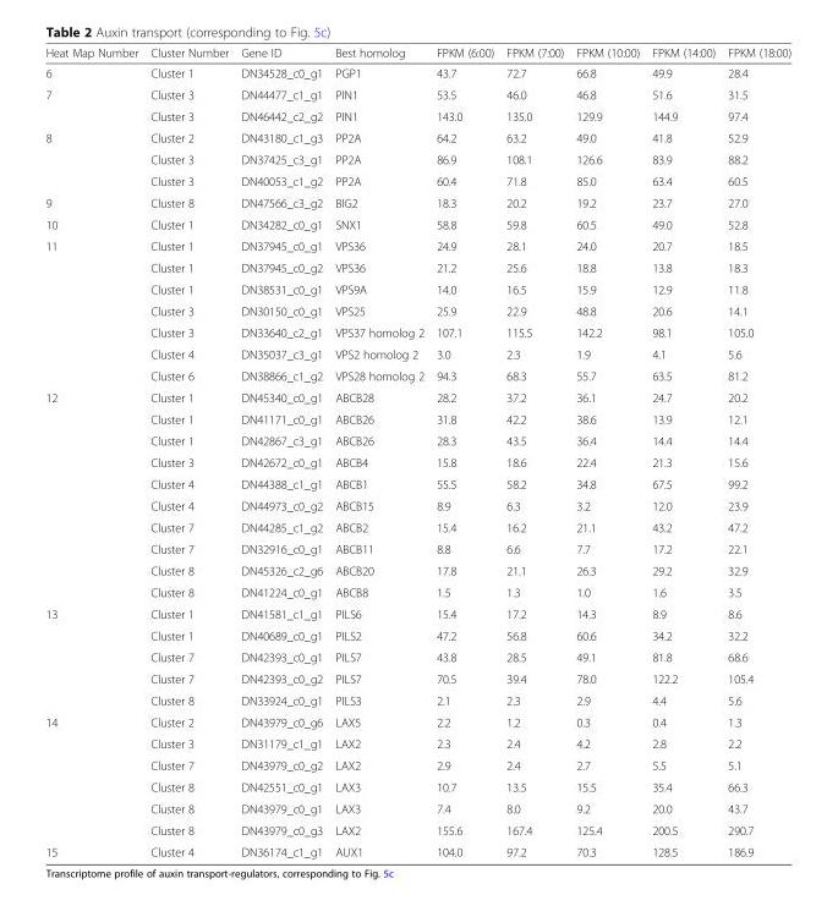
<table><thead><tr><td>Heat Map Number</td><td>Cluster Number</td><td>Gene ID</td><td>Best homolog</td><td>FPKM (6:00)</td><td>FPKM (7:00)</td><td>FPKM (10:00)</td><td>FPKM (14:00)</td><td>FPKM (18:00)</td></tr></thead><tbody><tr><td>6</td><td>Cluster 1</td><td>DN34528_c0_g1</td><td>PGP1</td><td>43.7</td><td>72.7</td><td>66.8</td><td>49.9</td><td>28.4</td></tr><tr><td rowspan="2">7</td><td>Cluster 3</td><td>DN44477_c1_g1</td><td>PIN1</td><td>53.5</td><td>46.0</td><td>46.8</td><td>51.6</td><td>31.5</td></tr><tr><td>Cluster 3</td><td>DN46442_c2_g2</td><td>PIN1</td><td>143.0</td><td>135.0</td><td>129.9</td><td>144.9</td><td>97.4</td></tr><tr><td rowspan="3">8</td><td>Cluster 2</td><td>DN43180_c1_g3</td><td>PP2A</td><td>64.2</td><td>63.2</td><td>49.0</td><td>41.8</td><td>52.9</td></tr><tr><td>Cluster 3</td><td>DN37425_c3_g1</td><td>PP2A</td><td>86.9</td><td>108.1</td><td>126.6</td><td>83.9</td><td>88.2</td></tr><tr><td>Cluster 3</td><td>DN40053_c1_g2</td><td>PP2A</td><td>60.4</td><td>71.8</td><td>85.0</td><td>63.4</td><td>60.5</td></tr><tr><td>9</td><td>Cluster 8</td><td>DN47566_c3_g2</td><td>BIG2</td><td>18.3</td><td>20.2</td><td>19.2</td><td>23.7</td><td>27.0</td></tr><tr><td>10</td><td>Cluster 1</td><td>DN34282_c0_g1</td><td>SNX1</td><td>58.8</td><td>59.8</td><td>60.5</td><td>49.0</td><td>52.8</td></tr><tr><td rowspan="7">11</td><td>Cluster 1</td><td>DN37945_c0_g1</td><td>VPS36</td><td>24.9</td><td>28.1</td><td>24.0</td><td>20.7</td><td>18.5</td></tr><tr><td>Cluster 1</td><td>DN37945_c0_g2</td><td>VPS36</td><td>21.2</td><td>25.6</td><td>18.8</td><td>13.8</td><td>18.3</td></tr><tr><td>Cluster 1</td><td>DN38531_c0_g1</td><td>VPS9A</td><td>14.0</td><td>16.5</td><td>15.9</td><td>12.9</td><td>11.8</td></tr><tr><td>Cluster 3</td><td>DN30150_c0_g1</td><td>VPS25</td><td>25.9</td><td>22.9</td><td>48.8</td><td>20.6</td><td>14.1</td></tr><tr><td>Cluster 3</td><td>DN33640_c2_g1</td><td>VPS37 homolog 2</td><td>107.1</td><td>115.5</td><td>142.2</td><td>98.1</td><td>105.0</td></tr><tr><td>Cluster 4</td><td>DN35037_c3_g1</td><td>VPS2 homolog 2</td><td>3.0</td><td>2.3</td><td>1.9</td><td>4.1</td><td>5.6</td></tr><tr><td>Cluster 6</td><td>DN38866_c1_g2</td><td>VPS28 homolog 2</td><td>94.3</td><td>68.3</td><td>55.7</td><td>63.5</td><td>81.2</td></tr><tr><td rowspan="10">12</td><td>Cluster 1</td><td>DN45340_c0_g1</td><td>ABCB28</td><td>28.2</td><td>37.2</td><td>36.1</td><td>24.7</td><td>20.2</td></tr><tr><td>Cluster 1</td><td>DN41171_c0_g1</td><td>ABCB26</td><td>31.8</td><td>42.2</td><td>38.6</td><td>13.9</td><td>12.1</td></tr><tr><td>Cluster 1</td><td>DN42867_c3_g1</td><td>ABCB26</td><td>28.3</td><td>43.5</td><td>36.4</td><td>14.4</td><td>14.4</td></tr><tr><td>Cluster 3</td><td>DN42672_c0_g1</td><td>ABCB4</td><td>15.8</td><td>18.6</td><td>22.4</td><td>21.3</td><td>15.6</td></tr><tr><td>Cluster 4</td><td>DN44388_c1_g1</td><td>ABCB1</td><td>55.5</td><td>58.2</td><td>34.8</td><td>67.5</td><td>99.2</td></tr><tr><td>Cluster 4</td><td>DN44973_c0_g2</td><td>ABCB15</td><td>8.9</td><td>6.3</td><td>3.2</td><td>12.0</td><td>23.9</td></tr><tr><td>Cluster 7</td><td>DN44285_c1_g2</td><td>ABCB2</td><td>15.4</td><td>16.2</td><td>21.1</td><td>43.2</td><td>47.2</td></tr><tr><td>Cluster 7</td><td>DN32916_c0_g1</td><td>ABCB11</td><td>8.8</td><td>6.6</td><td>7.7</td><td>17.2</td><td>22.1</td></tr><tr><td>Cluster 8</td><td>DN45326_c2_g6</td><td>ABCB20</td><td>17.8</td><td>21.1</td><td>26.3</td><td>29.2</td><td>32.9</td></tr><tr><td>Cluster 8</td><td>DN41224_c0_g1</td><td>ABCB8</td><td>1.5</td><td>1.3</td><td>1.0</td><td>1.6</td><td>3.5</td></tr><tr><td rowspan="5">13</td><td>Cluster 1</td><td>DN41581_c1_g1</td><td>PILS6</td><td>15.4</td><td>17.2</td><td>14.3</td><td>8.9</td><td>8.6</td></tr><tr><td>Cluster 1</td><td>DN40689_c0_g1</td><td>PILS2</td><td>47.2</td><td>56.8</td><td>60.6</td><td>34.2</td><td>32.2</td></tr><tr><td>Cluster 7</td><td>DN42393_c0_g1</td><td>PILS7</td><td>43.8</td><td>28.5</td><td>49.1</td><td>81.8</td><td>68.6</td></tr><tr><td>Cluster 7</td><td>DN42393_c0_g2</td><td>PILS7</td><td>70.5</td><td>39.4</td><td>78.0</td><td>122.2</td><td>105.4</td></tr><tr><td>Cluster 8</td><td>DN33924_c0_g1</td><td>PILS3</td><td>2.1</td><td>2.3</td><td>2.9</td><td>4.4</td><td>5.6</td></tr><tr><td rowspan="6">14</td><td>Cluster 2</td><td>DN43979_c0_g6</td><td>LAX5</td><td>2.2</td><td>1.2</td><td>0.3</td><td>0.4</td><td>1.3</td></tr><tr><td>Cluster 3</td><td>DN31179_c1_g1</td><td>LAX2</td><td>2.3</td><td>2.4</td><td>4.2</td><td>2.8</td><td>2.2</td></tr><tr><td>Cluster 7</td><td>DN43979_c0_g2</td><td>LAX2</td><td>2.9</td><td>2.4</td><td>2.7</td><td>5.5</td><td>5.1</td></tr><tr><td>Cluster 8</td><td>DN42551_c0_g1</td><td>LAX3</td><td>10.7</td><td>13.5</td><td>15.5</td><td>35.4</td><td>66.3</td></tr><tr><td>Cluster 8</td><td>DN43979_c0_g1</td><td>LAX3</td><td>7.4</td><td>8.0</td><td>9.2</td><td>20.0</td><td>43.7</td></tr><tr><td>Cluster 8</td><td>DN43979_c0_g3</td><td>LAX2</td><td>155.6</td><td>167.4</td><td>125.4</td><td>200.5</td><td>290.7</td></tr><tr><td>15</td><td>Cluster 4</td><td>DN36174_c1_g1</td><td>AUX1</td><td>104.0</td><td>97.2</td><td>70.3</td><td>128.5</td><td>186.9</td></tr></tbody></table>